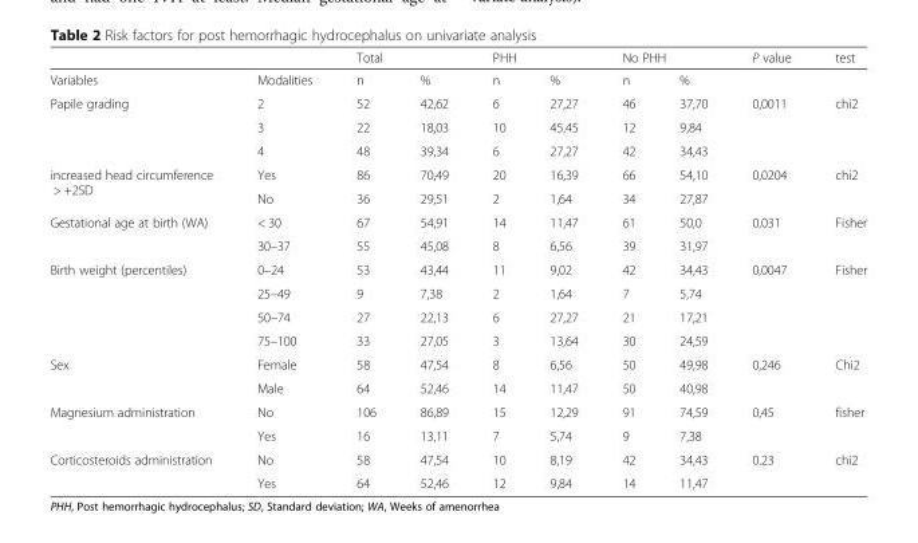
<table><thead><tr><td rowspan="2">Variables</td><td rowspan="2">Modalities</td><td colspan="2">Total</td><td colspan="2">PHH</td><td colspan="2">No PHH</td><td rowspan="2">P value</td><td rowspan="2">test</td></tr><tr><td>n</td><td>%</td><td>n</td><td>%</td><td>n</td><td>%</td></tr></thead><tbody><tr><td rowspan="3">Papile grading</td><td>2</td><td>52</td><td>42,62</td><td>6</td><td>27,27</td><td>46</td><td>37,70</td><td>0,0011</td><td>chi2</td></tr><tr><td>3</td><td>22</td><td>18,03</td><td>10</td><td>45,45</td><td>12</td><td>9,84</td><td></td><td></td></tr><tr><td>4</td><td>48</td><td>39,34</td><td>6</td><td>27,27</td><td>42</td><td>34,43</td><td></td><td></td></tr><tr><td rowspan="2">increased head circumference &gt; +2SD</td><td>Yes</td><td>86</td><td>70,49</td><td>20</td><td>16,39</td><td>66</td><td>54,10</td><td>0,0204</td><td>chi2</td></tr><tr><td>No</td><td>36</td><td>29,51</td><td>2</td><td>1,64</td><td>34</td><td>27,87</td><td></td><td></td></tr><tr><td rowspan="2">Gestational age at birth (WA)</td><td>&lt; 30</td><td>67</td><td>54,91</td><td>14</td><td>11,47</td><td>61</td><td>50,0</td><td>0,031</td><td>Fisher</td></tr><tr><td>30–37</td><td>55</td><td>45,08</td><td>8</td><td>6,56</td><td>39</td><td>31,97</td><td></td><td></td></tr><tr><td rowspan="4">Birth weight (percentiles)</td><td>0–24</td><td>53</td><td>43,44</td><td>11</td><td>9,02</td><td>42</td><td>34,43</td><td>0,0047</td><td>Fisher</td></tr><tr><td>25–49</td><td>9</td><td>7,38</td><td>2</td><td>1,64</td><td>7</td><td>5,74</td><td></td><td></td></tr><tr><td>50–74</td><td>27</td><td>22,13</td><td>6</td><td>27,27</td><td>21</td><td>17,21</td><td></td><td></td></tr><tr><td>75–100</td><td>33</td><td>27,05</td><td>3</td><td>13,64</td><td>30</td><td>24,59</td><td></td><td></td></tr><tr><td rowspan="2">Sex</td><td>Female</td><td>58</td><td>47,54</td><td>8</td><td>6,56</td><td>50</td><td>49,98</td><td>0,246</td><td>Chi2</td></tr><tr><td>Male</td><td>64</td><td>52,46</td><td>14</td><td>11,47</td><td>50</td><td>40,98</td><td></td><td></td></tr><tr><td rowspan="2">Magnesium administration</td><td>No</td><td>106</td><td>86,89</td><td>15</td><td>12,29</td><td>91</td><td>74,59</td><td>0,45</td><td>fisher</td></tr><tr><td>Yes</td><td>16</td><td>13,11</td><td>7</td><td>5,74</td><td>9</td><td>7,38</td><td></td><td></td></tr><tr><td rowspan="2">Corticosteroids administration</td><td>No</td><td>58</td><td>47,54</td><td>10</td><td>8,19</td><td>42</td><td>34,43</td><td>0.23</td><td>chi2</td></tr><tr><td>Yes</td><td>64</td><td>52,46</td><td>12</td><td>9,84</td><td>14</td><td>11,47</td><td></td><td></td></tr></tbody></table>